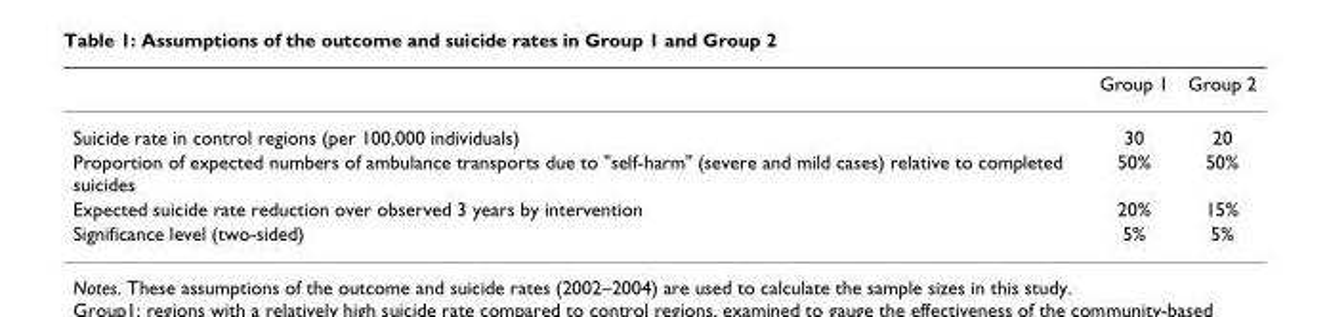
<table><thead><tr><td></td><td>Group 1</td><td>Group 2</td></tr></thead><tbody><tr><td>Suicide rate in control regions (per 100,000 individuals)</td><td>30</td><td>20</td></tr><tr><td>Proportion of expected numbers of ambulance transports due to &quot;self-harm&quot; (severe and mild cases) relative to completed suicides</td><td>50%</td><td>50%</td></tr><tr><td>Expected suicide rate reduction over observed 3 years by intervention</td><td>20%</td><td>15%</td></tr><tr><td>Significance level (two-sided)</td><td>5%</td><td>5%</td></tr></tbody></table>